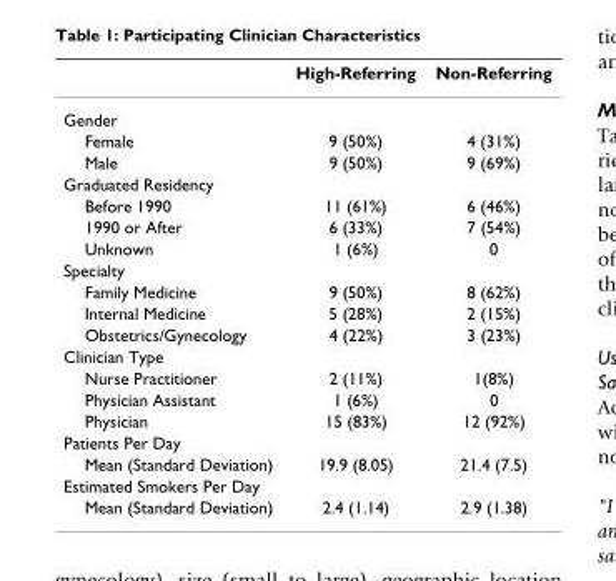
<table><thead><tr><td></td><td>High-Referring</td><td>Non-Referring</td></tr></thead><tbody><tr><td colspan="3">Gender</td></tr><tr><td>Female</td><td>9 (50%)</td><td>4 (31%)</td></tr><tr><td>Male</td><td>9 (50%)</td><td>9 (69%)</td></tr><tr><td colspan="3">Graduated Residency</td></tr><tr><td>Before 1990</td><td>11 (61%)</td><td>6 (46%)</td></tr><tr><td>1990 or After</td><td>6 (33%)</td><td>7 (54%)</td></tr><tr><td>Unknown</td><td>1 (6%)</td><td>0</td></tr><tr><td colspan="3">Specialty</td></tr><tr><td>Family Medicine</td><td>9 (50%)</td><td>8 (62%)</td></tr><tr><td>Internal Medicine</td><td>5 (28%)</td><td>2 (15%)</td></tr><tr><td>Obstetrics/Gynecology</td><td>4 (22%)</td><td>3 (23%)</td></tr><tr><td colspan="3">Clinician Type</td></tr><tr><td>Nurse Practitioner</td><td>2 (11%)</td><td>1(8%)</td></tr><tr><td>Physician Assistant</td><td>1 (6%)</td><td>0</td></tr><tr><td>Physician</td><td>15 (83%)</td><td>12 (92%)</td></tr><tr><td colspan="3">Patients Per Day</td></tr><tr><td>Mean (Standard Deviation)</td><td>19.9 (8.05)</td><td>21.4 (7.5)</td></tr><tr><td colspan="3">Estimated Smokers Per Day</td></tr><tr><td>Mean (Standard Deviation)</td><td>2.4 (1.14)</td><td>2.9 (1.38)</td></tr></tbody></table>